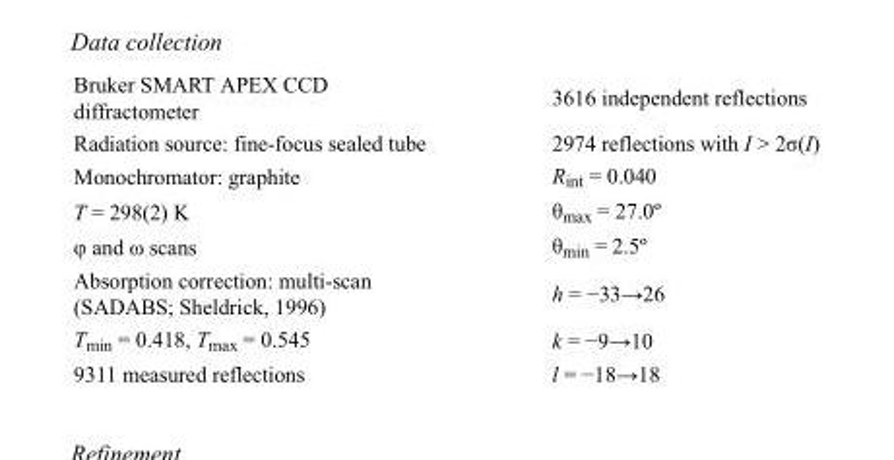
<table><tbody><tr><td>Bruker SMART APEX CCD diffractometer</td><td>3616 independent reflections</td></tr><tr><td>Radiation source: fine-focus sealed tube</td><td>2974 reflections with I &gt; 2σ(I)</td></tr><tr><td>Monochromator: graphite</td><td>R<sub>int</sub> = 0.040</td></tr><tr><td>T = 298(2) K</td><td>θ<sub>max</sub> = 27.0º</td></tr><tr><td>φ and ω scans</td><td>θ<sub>min</sub> = 2.5º</td></tr><tr><td>Absorption correction: multi-scan (SADABS; Sheldrick, 1996)</td><td>h = −33→26</td></tr><tr><td>T<sub>min</sub> = 0.418, T<sub>max</sub> = 0.545</td><td>k = −9→10</td></tr><tr><td>9311 measured reflections</td><td>l = −18→18</td></tr></tbody></table>